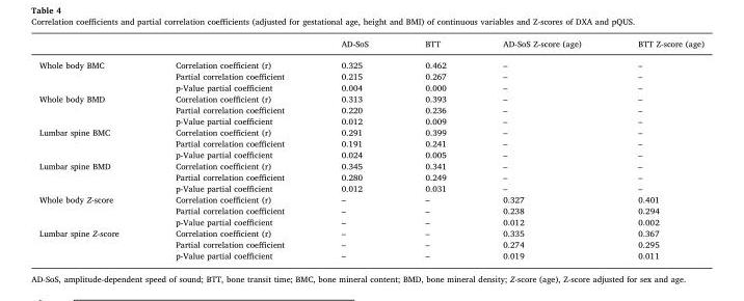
<table><thead><tr><td></td><td></td><td>AD-SoS</td><td>BTT</td><td>AD-SoS Z-score (age)</td><td>BTT Z-score (age)</td></tr></thead><tbody><tr><td rowspan="3">Whole body BMC</td><td>Correlation coefficient (r)</td><td>0.325</td><td>0.462</td><td>–</td><td>–</td></tr><tr><td>Partial correlation coefficient</td><td>0.215</td><td>0.267</td><td>–</td><td>–</td></tr><tr><td>p-Value partial coefficient</td><td>0.004</td><td>0.000</td><td>–</td><td>–</td></tr><tr><td rowspan="3">Whole body BMD</td><td>Correlation coefficient (r)</td><td>0.313</td><td>0.393</td><td>–</td><td>–</td></tr><tr><td>Partial correlation coefficient</td><td>0.220</td><td>0.236</td><td>–</td><td>–</td></tr><tr><td>p-Value partial coefficient</td><td>0.012</td><td>0.009</td><td>–</td><td>–</td></tr><tr><td rowspan="3">Lumbar spine BMC</td><td>Correlation coefficient (r)</td><td>0.291</td><td>0.399</td><td>–</td><td>–</td></tr><tr><td>Partial correlation coefficient</td><td>0.191</td><td>0.241</td><td>–</td><td>–</td></tr><tr><td>p-Value partial coefficient</td><td>0.024</td><td>0.005</td><td>–</td><td>–</td></tr><tr><td rowspan="3">Lumbar spine BMD</td><td>Correlation coefficient (r)</td><td>0.345</td><td>0.341</td><td>–</td><td>–</td></tr><tr><td>Partial correlation coefficient</td><td>0.280</td><td>0.249</td><td>–</td><td>–</td></tr><tr><td>p-Value partial coefficient</td><td>0.012</td><td>0.031</td><td>–</td><td>–</td></tr><tr><td rowspan="3">Whole body Z-score</td><td>Correlation coefficient (r)</td><td>–</td><td>–</td><td>0.327</td><td>0.401</td></tr><tr><td>Partial correlation coefficient</td><td>–</td><td>–</td><td>0.238</td><td>0.294</td></tr><tr><td>p-Value partial coefficient</td><td>–</td><td>–</td><td>0.012</td><td>0.002</td></tr><tr><td rowspan="3">Lumbar spine Z-score</td><td>Correlation coefficient (r)</td><td>–</td><td>–</td><td>0.335</td><td>0.367</td></tr><tr><td>Partial correlation coefficient</td><td>–</td><td>–</td><td>0.274</td><td>0.295</td></tr><tr><td>p-Value partial coefficient</td><td>–</td><td>–</td><td>0.019</td><td>0.011</td></tr></tbody></table>